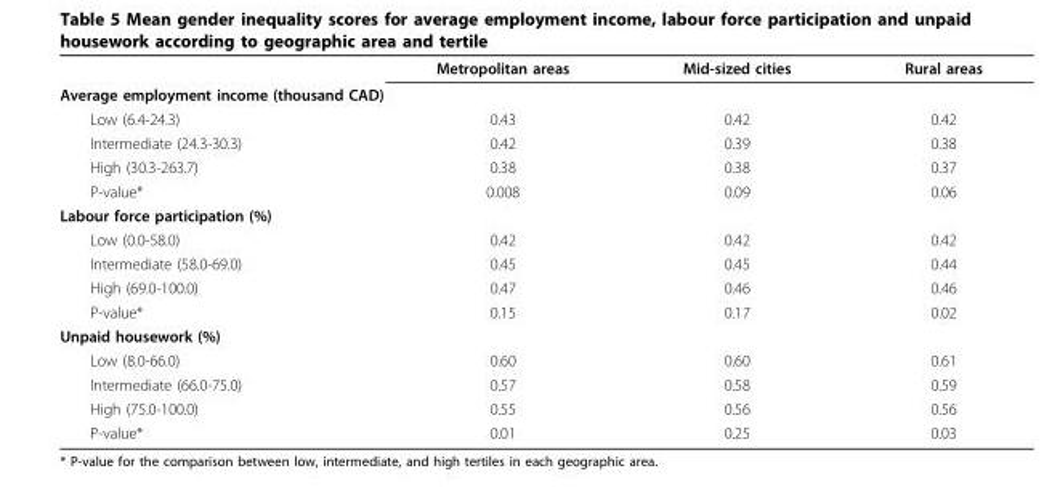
<table><thead><tr><td></td><td>Metropolitan areas</td><td>Mid-sized cities</td><td>Rural areas</td></tr></thead><tbody><tr><td colspan="4">Average employment income (thousand CAD)</td></tr><tr><td>Low (6.4-24.3)</td><td>0.43</td><td>0.42</td><td>0.42</td></tr><tr><td>Intermediate (24.3-30.3)</td><td>0.42</td><td>0.39</td><td>0.38</td></tr><tr><td>High (30.3-263.7)</td><td>0.38</td><td>0.38</td><td>0.37</td></tr><tr><td>P-value*</td><td>0.008</td><td>0.09</td><td>0.06</td></tr><tr><td colspan="4">Labour force participation (%)</td></tr><tr><td>Low (0.0-58.0)</td><td>0.42</td><td>0.42</td><td>0.42</td></tr><tr><td>Intermediate (58.0-69.0)</td><td>0.45</td><td>0.45</td><td>0.44</td></tr><tr><td>High (69.0-100.0)</td><td>0.47</td><td>0.46</td><td>0.46</td></tr><tr><td>P-value*</td><td>0.15</td><td>0.17</td><td>0.02</td></tr><tr><td colspan="4">Unpaid housework (%)</td></tr><tr><td>Low (8.0-66.0)</td><td>0.60</td><td>0.60</td><td>0.61</td></tr><tr><td>Intermediate (66.0-75.0)</td><td>0.57</td><td>0.58</td><td>0.59</td></tr><tr><td>High (75.0-100.0)</td><td>0.55</td><td>0.56</td><td>0.56</td></tr><tr><td>P-value*</td><td>0.01</td><td>0.25</td><td>0.03</td></tr></tbody></table>